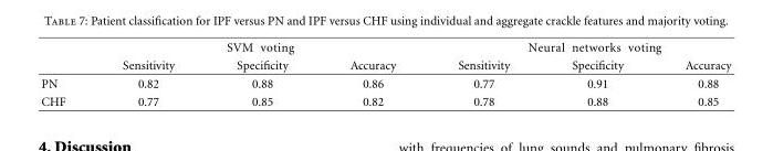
<table><thead><tr><td rowspan="2"></td><td colspan="3">SVM voting</td><td colspan="3">Neural networks voting</td></tr><tr><td>Sensitivity</td><td>Specificity</td><td>Accuracy</td><td>Sensitivity</td><td>Specificity</td><td>Accuracy</td></tr></thead><tbody><tr><td>PN</td><td>0.82</td><td>0.88</td><td>0.86</td><td>0.77</td><td>0.91</td><td>0.88</td></tr><tr><td>CHF</td><td>0.77</td><td>0.85</td><td>0.82</td><td>0.78</td><td>0.88</td><td>0.85</td></tr></tbody></table>